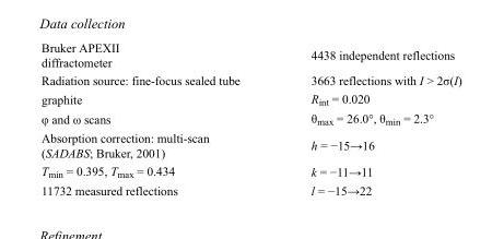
<table><tbody><tr><td>Bruker APEXII diffractometer</td><td>4438 independent reflections</td></tr><tr><td>Radiation source: fine-focus sealed tube</td><td>3663 reflections with I &gt; 2σ(I)</td></tr><tr><td>graphite</td><td>R<sub>int</sub> = 0.020</td></tr><tr><td>φ and ω scans</td><td>θ<sub>max</sub> = 26.0°, θ<sub>min</sub> = 2.3°</td></tr><tr><td>Absorption correction: multi-scan (SADABS; Bruker, 2001)</td><td>h = −15→16</td></tr><tr><td>T<sub>min</sub> = 0.395, T<sub>max</sub> = 0.434</td><td>k = −11→11</td></tr><tr><td>11732 measured reflections</td><td>l = −15→22</td></tr></tbody></table>